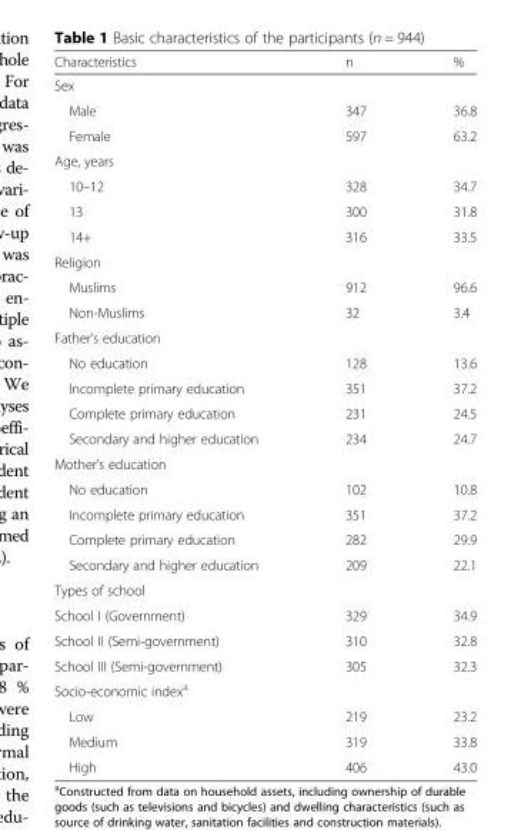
<table><thead><tr><td>Characteristics</td><td>n</td><td>%</td></tr></thead><tbody><tr><td colspan="3">Sex</td></tr><tr><td>Male</td><td>347</td><td>36.8</td></tr><tr><td>Female</td><td>597</td><td>63.2</td></tr><tr><td colspan="3">Age, years</td></tr><tr><td>10–12</td><td>328</td><td>34.7</td></tr><tr><td>13</td><td>300</td><td>31.8</td></tr><tr><td>14+</td><td>316</td><td>33.5</td></tr><tr><td colspan="3">Religion</td></tr><tr><td>Muslims</td><td>912</td><td>96.6</td></tr><tr><td>Non-Muslims</td><td>32</td><td>3.4</td></tr><tr><td colspan="3">Father’s education</td></tr><tr><td>No education</td><td>128</td><td>13.6</td></tr><tr><td>Incomplete primary education</td><td>351</td><td>37.2</td></tr><tr><td>Complete primary education</td><td>231</td><td>24.5</td></tr><tr><td>Secondary and higher education</td><td>234</td><td>24.7</td></tr><tr><td colspan="3">Mother’s education</td></tr><tr><td>No education</td><td>102</td><td>10.8</td></tr><tr><td>Incomplete primary education</td><td>351</td><td>37.2</td></tr><tr><td>Complete primary education</td><td>282</td><td>29.9</td></tr><tr><td>Secondary and higher education</td><td>209</td><td>22.1</td></tr><tr><td colspan="3">Types of school</td></tr><tr><td>School I (Government)</td><td>329</td><td>34.9</td></tr><tr><td>School II (Semi-government)</td><td>310</td><td>32.8</td></tr><tr><td>School III (Semi-government)</td><td>305</td><td>32.3</td></tr><tr><td colspan="3">Socio-economic index<sup>a</sup></td></tr><tr><td>Low</td><td>219</td><td>23.2</td></tr><tr><td>Medium</td><td>319</td><td>33.8</td></tr><tr><td>High</td><td>406</td><td>43.0</td></tr></tbody></table>